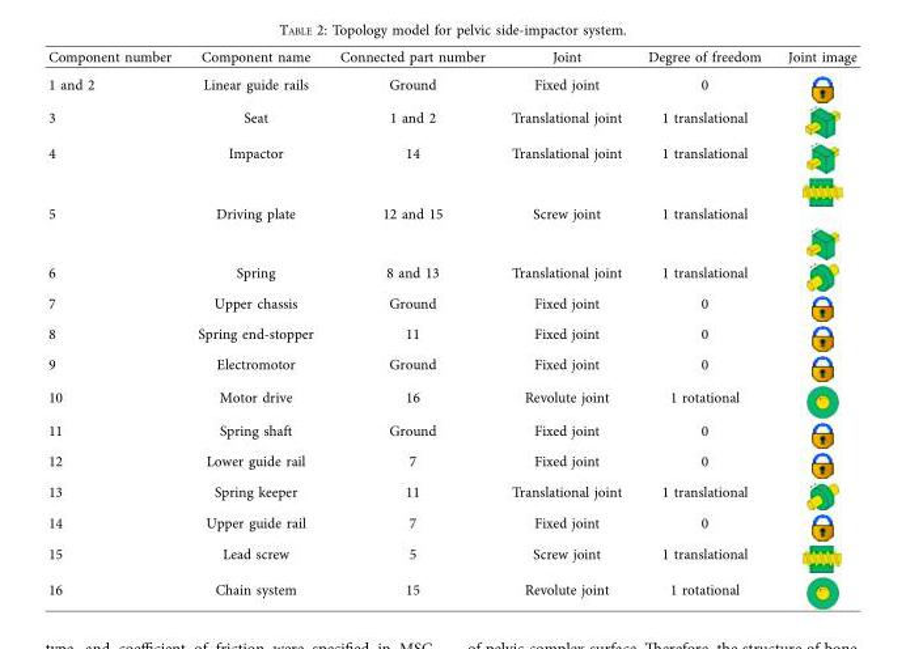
<table><thead><tr><td>Component number</td><td>Component name</td><td>Connected part number</td><td>Joint</td><td>Degree of freedom</td><td>Joint image</td></tr></thead><tbody><tr><td>1 and 2</td><td>Linear guide rails</td><td>Ground</td><td>Fixed joint</td><td>0</td><td></td></tr><tr><td>3</td><td>Seat</td><td>1 and 2</td><td>Translational joint</td><td>1 translational</td><td></td></tr><tr><td>4</td><td>Impactor</td><td>14</td><td>Translational joint</td><td>1 translational</td><td></td></tr><tr><td>5</td><td>Driving plate</td><td>12 and 15</td><td>Screw joint</td><td>1 translational</td><td></td></tr><tr><td>6</td><td>Spring</td><td>8 and 13</td><td>Translational joint</td><td>1 translational</td><td></td></tr><tr><td>7</td><td>Upper chassis</td><td>Ground</td><td>Fixed joint</td><td>0</td><td></td></tr><tr><td>8</td><td>Spring end-stopper</td><td>11</td><td>Fixed joint</td><td>0</td><td></td></tr><tr><td>9</td><td>Electromotor</td><td>Ground</td><td>Fixed joint</td><td>0</td><td></td></tr><tr><td>10</td><td>Motor drive</td><td>16</td><td>Revolute joint</td><td>1 rotational</td><td></td></tr><tr><td>11</td><td>Spring shaft</td><td>Ground</td><td>Fixed joint</td><td>0</td><td></td></tr><tr><td>12</td><td>Lower guide rail</td><td>7</td><td>Fixed joint</td><td>0</td><td></td></tr><tr><td>13</td><td>Spring keeper</td><td>11</td><td>Translational joint</td><td>1 translational</td><td></td></tr><tr><td>14</td><td>Upper guide rail</td><td>7</td><td>Fixed joint</td><td>0</td><td></td></tr><tr><td>15</td><td>Lead screw</td><td>5</td><td>Screw joint</td><td>1 translational</td><td></td></tr><tr><td>16</td><td>Chain system</td><td>15</td><td>Revolute joint</td><td>1 rotational</td><td></td></tr></tbody></table>